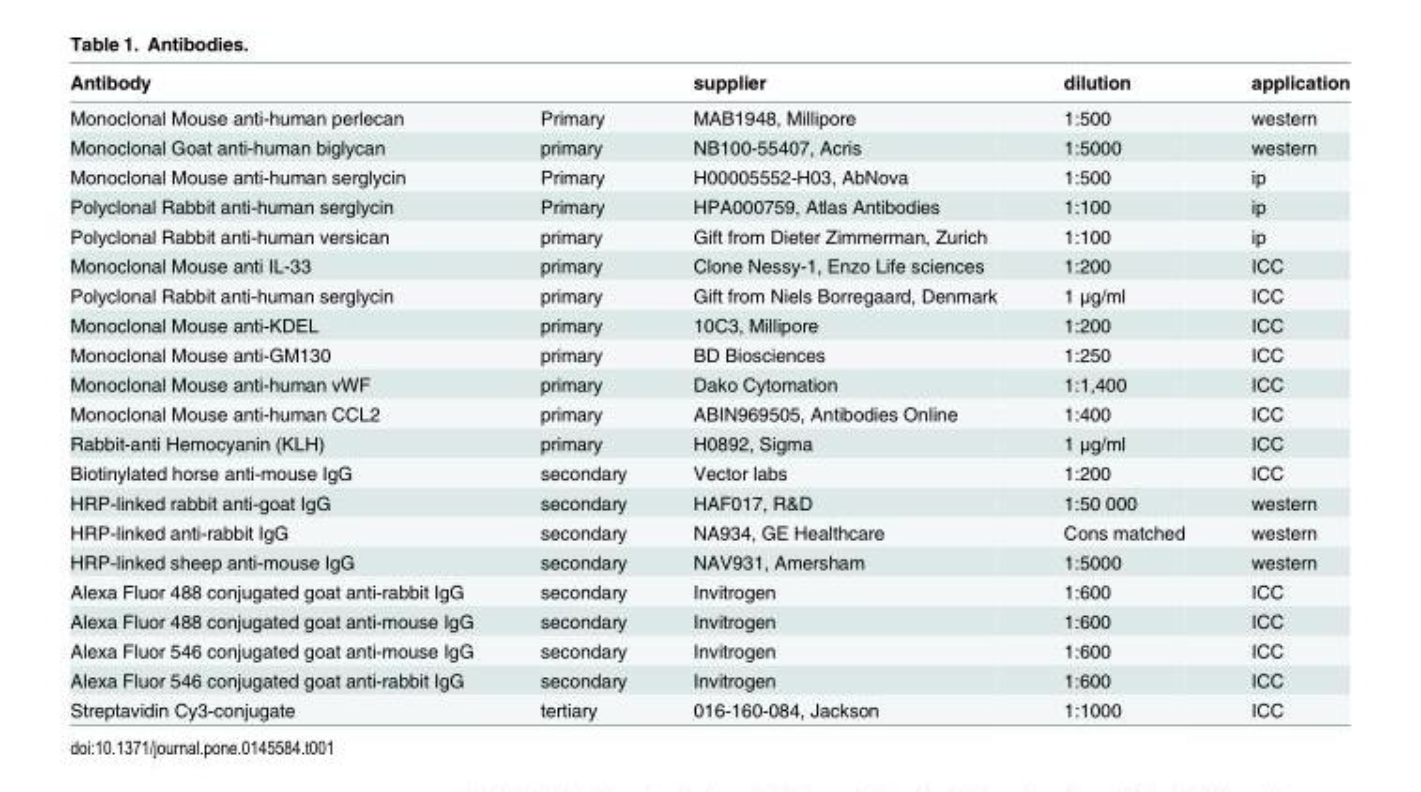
<table><thead><tr><td>Antibody</td><td></td><td>supplier</td><td>dilution</td><td>application</td></tr></thead><tbody><tr><td>Monoclonal Mouse anti-human perlecan</td><td>Primary</td><td>MAB1948, Millipore</td><td>1:500</td><td>western</td></tr><tr><td>Monoclonal Goat anti-human biglycan</td><td>primary</td><td>NB100-55407, Acris</td><td>1:5000</td><td>western</td></tr><tr><td>Monoclonal Mouse anti-human serglycin</td><td>Primary</td><td>H00005552-H03, AbNova</td><td>1:500</td><td>ip</td></tr><tr><td>Polyclonal Rabbit anti-human serglycin</td><td>Primary</td><td>HPA000759, Atlas Antibodies</td><td>1:100</td><td>ip</td></tr><tr><td>Polyclonal Rabbit anti-human versican</td><td>primary</td><td>Gift from Dieter Zimmerman, Zurich</td><td>1:100</td><td>ip</td></tr><tr><td>Monoclonal Mouse anti IL-33</td><td>primary</td><td>Clone Nessy-1, Enzo Life sciences</td><td>1:200</td><td>ICC</td></tr><tr><td>Polyclonal Rabbit anti-human serglycin</td><td>primary</td><td>Gift from Niels Borregaard, Denmark</td><td>1 μg/ml</td><td>ICC</td></tr><tr><td>Monoclonal Mouse anti-KDEL</td><td>primary</td><td>10C3, Millipore</td><td>1:200</td><td>ICC</td></tr><tr><td>Monoclonal Mouse anti-GM130</td><td>primary</td><td>BD Biosciences</td><td>1:250</td><td>ICC</td></tr><tr><td>Monoclonal Mouse anti-human vWF</td><td>primary</td><td>Dako Cytomation</td><td>1:1,400</td><td>ICC</td></tr><tr><td>Monoclonal Mouse anti-human CCL2</td><td>primary</td><td>ABIN969505, Antibodies Online</td><td>1:400</td><td>ICC</td></tr><tr><td>Rabbit-anti Hemocyanin (KLH)</td><td>primary</td><td>H0892, Sigma</td><td>1 μg/ml</td><td>ICC</td></tr><tr><td>Biotinylated horse anti-mouse IgG</td><td>secondary</td><td>Vector labs</td><td>1:200</td><td>ICC</td></tr><tr><td>HRP-linked rabbit anti-goat IgG</td><td>secondary</td><td>HAF017, R&amp;D</td><td>1:50 000</td><td>western</td></tr><tr><td>HRP-linked anti-rabbit IgG</td><td>secondary</td><td>NA934, GE Healthcare</td><td>Cons matched</td><td>western</td></tr><tr><td>HRP-linked sheep anti-mouse IgG</td><td>secondary</td><td>NAV931, Amersham</td><td>1:5000</td><td>western</td></tr><tr><td>Alexa Fluor 488 conjugated goat anti-rabbit IgG</td><td>secondary</td><td>Invitrogen</td><td>1:600</td><td>ICC</td></tr><tr><td>Alexa Fluor 488 conjugated goat anti-mouse IgG</td><td>secondary</td><td>Invitrogen</td><td>1:600</td><td>ICC</td></tr><tr><td>Alexa Fluor 546 conjugated goat anti-mouse IgG</td><td>secondary</td><td>Invitrogen</td><td>1:600</td><td>ICC</td></tr><tr><td>Alexa Fluor 546 conjugated goat anti-rabbit IgG</td><td>secondary</td><td>Invitrogen</td><td>1:600</td><td>ICC</td></tr><tr><td>Streptavidin Cy3-conjugate</td><td>tertiary</td><td>016-160-084, Jackson</td><td>1:1000</td><td>ICC</td></tr></tbody></table>